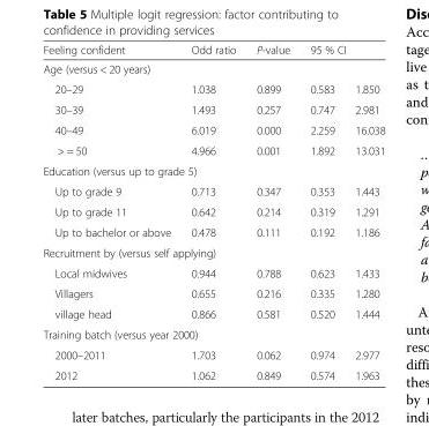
<table><thead><tr><td>Feeling confident</td><td>Odd ratio</td><td>P-value</td><td colspan="2">95 % CI</td></tr><tr><td colspan="5">Age (versus &lt; 20 years)</td></tr><tr><td>20–29</td><td>1.038</td><td>0.899</td><td>0.583</td><td>1.850</td></tr></thead><tbody><tr><td>30–39</td><td>1.493</td><td>0.257</td><td>0.747</td><td>2.981</td></tr><tr><td>40–49</td><td>6.019</td><td>0.000</td><td>2.259</td><td>16.038</td></tr><tr><td>&gt; = 50</td><td>4.966</td><td>0.001</td><td>1.892</td><td>13.031</td></tr><tr><td colspan="5">Education (versus up to grade 5)</td></tr><tr><td>Up to grade 9</td><td>0.713</td><td>0.347</td><td>0.353</td><td>1.443</td></tr><tr><td>Up to grade 11</td><td>0.642</td><td>0.214</td><td>0.319</td><td>1.291</td></tr><tr><td>Up to bachelor or above</td><td>0.478</td><td>0.111</td><td>0.192</td><td>1.186</td></tr><tr><td colspan="5">Recruitment by (versus self applying)</td></tr><tr><td>Local midwives</td><td>0.944</td><td>0.788</td><td>0.623</td><td>1.433</td></tr><tr><td>Villagers</td><td>0.655</td><td>0.216</td><td>0.335</td><td>1.280</td></tr><tr><td>village head</td><td>0.866</td><td>0.581</td><td>0.520</td><td>1.444</td></tr><tr><td colspan="5">Training batch (versus year 2000)</td></tr><tr><td>2000–2011</td><td>1.703</td><td>0.062</td><td>0.974</td><td>2.977</td></tr><tr><td>2012</td><td>1.062</td><td>0.849</td><td>0.574</td><td>1.963</td></tr></tbody></table>